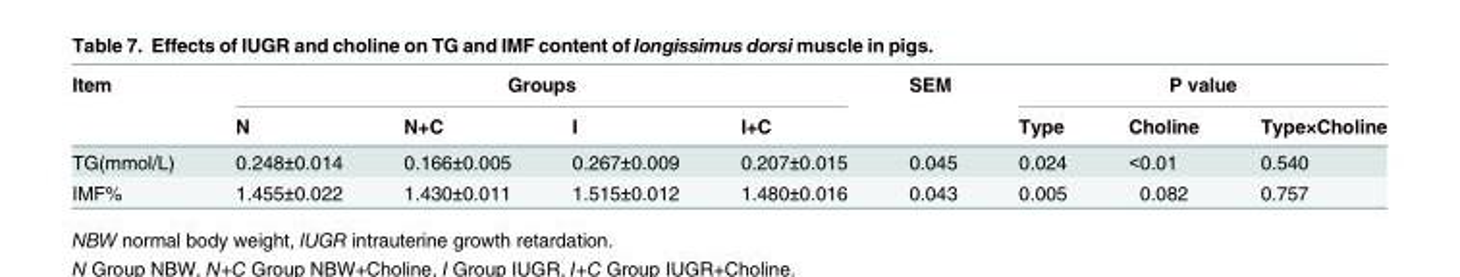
<table><thead><tr><td rowspan="2">Item</td><td colspan="4">Groups</td><td rowspan="2">SEM</td><td colspan="3">P value</td></tr><tr><td>N</td><td>N+C</td><td>I</td><td>I+C</td><td>Type</td><td>Choline</td><td>Type×Choline</td></tr></thead><tbody><tr><td>TG(mmol/L)</td><td>0.248±0.014</td><td>0.166±0.005</td><td>0.267±0.009</td><td>0.207±0.015</td><td>0.045</td><td>0.024</td><td>&lt;0.01</td><td>0.540</td></tr><tr><td>IMF%</td><td>1.455±0.022</td><td>1.430±0.011</td><td>1.515±0.012</td><td>1.480±0.016</td><td>0.043</td><td>0.005</td><td>0.082</td><td>0.757</td></tr></tbody></table>